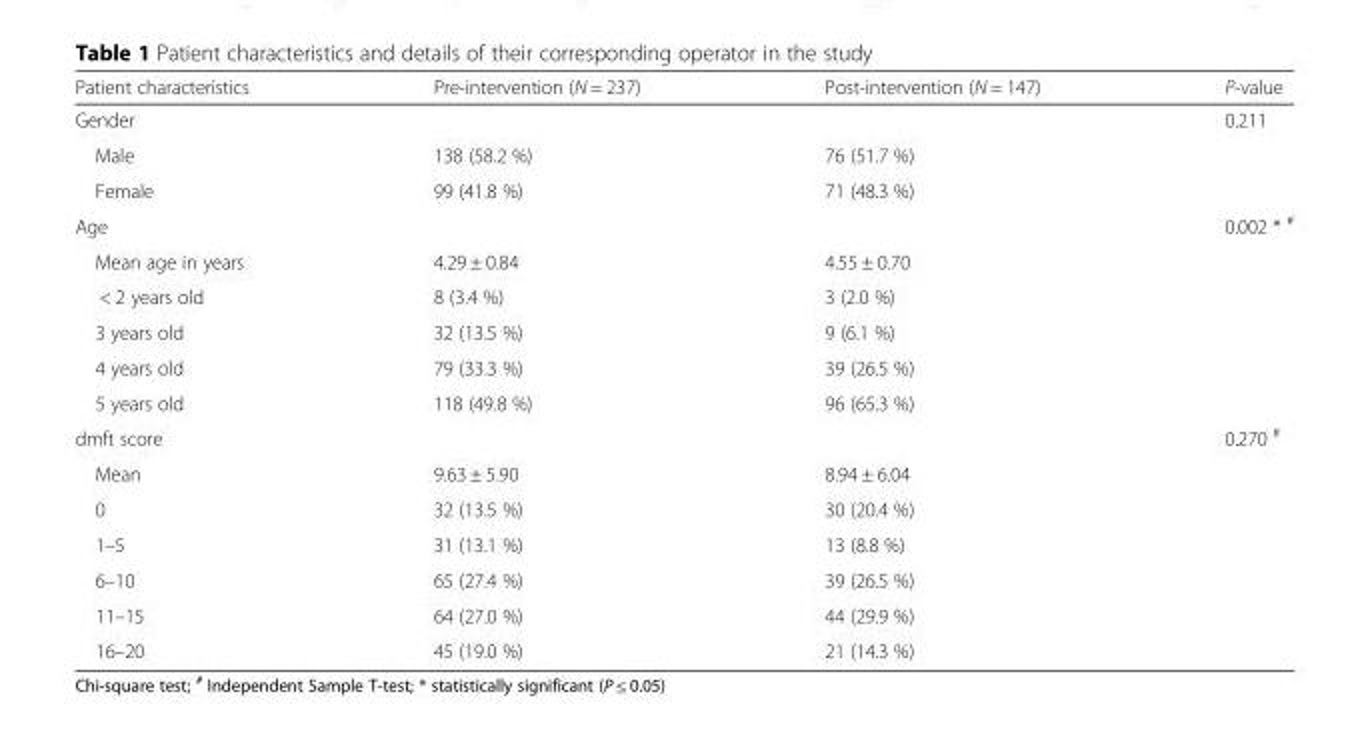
<table><thead><tr><td>Patient characteristics</td><td>Pre-intervention (N = 237)</td><td>Post-intervention (N = 147)</td><td>P-value</td></tr></thead><tbody><tr><td colspan="3">Gender</td><td>0.211</td></tr><tr><td>Male</td><td>138 (58.2 %)</td><td>76 (51.7 %)</td><td></td></tr><tr><td>Female</td><td>99 (41.8 %)</td><td>71 (48.3 %)</td><td></td></tr><tr><td colspan="3">Age</td><td>0.002 * <sup>#</sup></td></tr><tr><td>Mean age in years</td><td>4.29 ± 0.84</td><td>4.55 ± 0.70</td><td></td></tr><tr><td>&lt; 2 years old</td><td>8 (3.4 %)</td><td>3 (2.0 %)</td><td></td></tr><tr><td>3 years old</td><td>32 (13.5 %)</td><td>9 (6.1 %)</td><td></td></tr><tr><td>4 years old</td><td>79 (33.3 %)</td><td>39 (26.5 %)</td><td></td></tr><tr><td>5 years old</td><td>118 (49.8 %)</td><td>96 (65.3 %)</td><td></td></tr><tr><td colspan="3">dmft score</td><td>0.270 <sup>#</sup></td></tr><tr><td>Mean</td><td>9.63 ± 5.90</td><td>8.94 ± 6.04</td><td></td></tr><tr><td>0</td><td>32 (13.5 %)</td><td>30 (20.4 %)</td><td></td></tr><tr><td>1–5</td><td>31 (13.1 %)</td><td>13 (8.8 %)</td><td></td></tr><tr><td>6–10</td><td>65 (27.4 %)</td><td>39 (26.5 %)</td><td></td></tr><tr><td>11–15</td><td>64 (27.0 %)</td><td>44 (29.9 %)</td><td></td></tr><tr><td>16–20</td><td>45 (19.0 %)</td><td>21 (14.3 %)</td><td></td></tr></tbody></table>